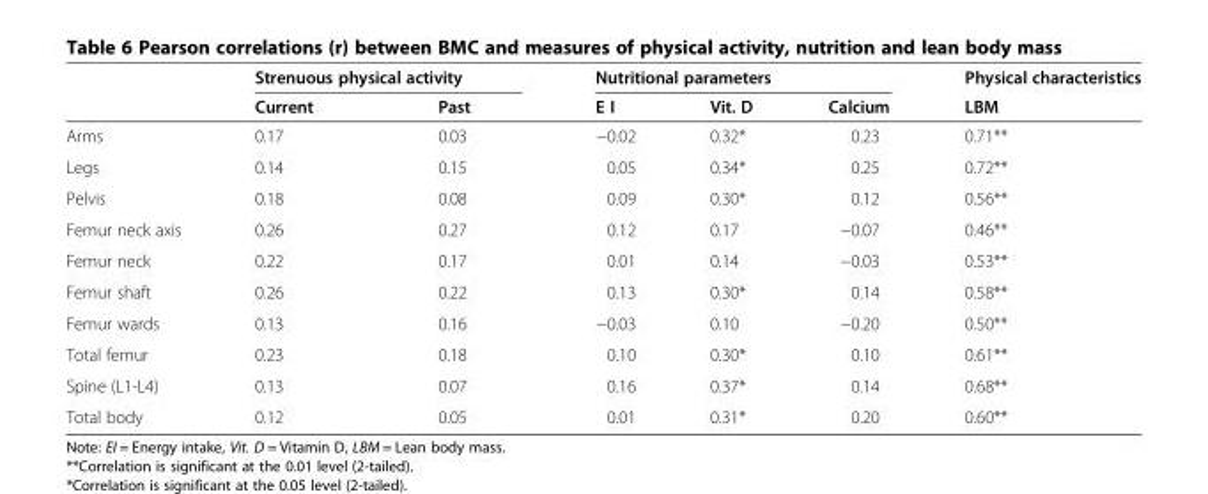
<table><thead><tr><td rowspan="2"></td><td colspan="2">Strenuous physical activity</td><td colspan="3">Nutritional parameters</td><td rowspan="2">Physical characteristics LBM</td></tr><tr><td>Current</td><td>Past</td><td>E I</td><td>Vit. D</td><td>Calcium</td></tr></thead><tbody><tr><td>Arms</td><td>0.17</td><td>0.03</td><td>−0.02</td><td>0.32*</td><td>0.23</td><td>0.71**</td></tr><tr><td>Legs</td><td>0.14</td><td>0.15</td><td>0.05</td><td>0.34*</td><td>0.25</td><td>0.72**</td></tr><tr><td>Pelvis</td><td>0.18</td><td>0.08</td><td>0.09</td><td>0.30*</td><td>0.12</td><td>0.56**</td></tr><tr><td>Femur neck axis</td><td>0.26</td><td>0.27</td><td>0.12</td><td>0.17</td><td>−0.07</td><td>0.46**</td></tr><tr><td>Femur neck</td><td>0.22</td><td>0.17</td><td>0.01</td><td>0.14</td><td>−0.03</td><td>0.53**</td></tr><tr><td>Femur shaft</td><td>0.26</td><td>0.22</td><td>0.13</td><td>0.30*</td><td>0.14</td><td>0.58**</td></tr><tr><td>Femur wards</td><td>0.13</td><td>0.16</td><td>−0.03</td><td>0.10</td><td>−0.20</td><td>0.50**</td></tr><tr><td>Total femur</td><td>0.23</td><td>0.18</td><td>0.10</td><td>0.30*</td><td>0.10</td><td>0.61**</td></tr><tr><td>Spine (L1-L4)</td><td>0.13</td><td>0.07</td><td>0.16</td><td>0.37*</td><td>0.14</td><td>0.68**</td></tr><tr><td>Total body</td><td>0.12</td><td>0.05</td><td>0.01</td><td>0.31*</td><td>0.20</td><td>0.60**</td></tr></tbody></table>